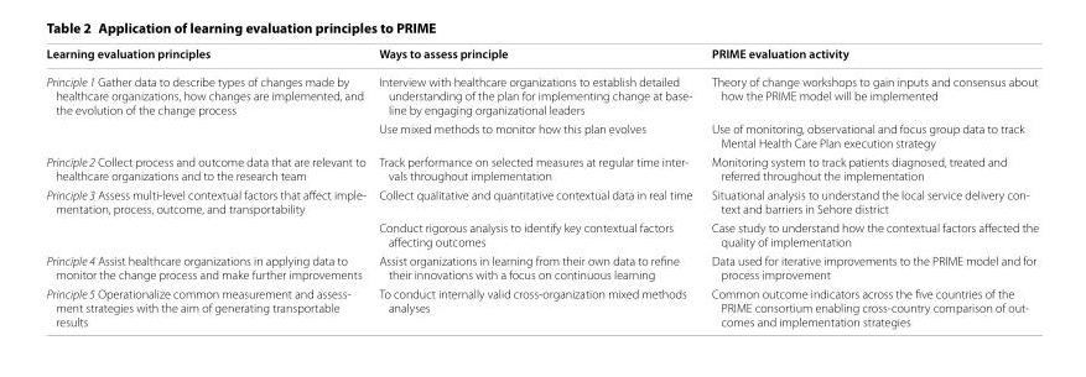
<table><thead><tr><td>Learning evaluation principles</td><td>Ways to assess principle</td><td>PRIME evaluation activity</td></tr></thead><tbody><tr><td rowspan="2">Principle 1 Gather data to describe types of changes made by healthcare organizations, how changes are implemented, and the evolution of the change process</td><td>Interview with healthcare organizations to establish detailed understanding of the plan for implementing change at base- line by engaging organizational leaders</td><td>Theory of change workshops to gain inputs and consensus about how the PRIME model will be implemented</td></tr><tr><td>Use mixed methods to monitor how this plan evolves</td><td>Use of monitoring, observational and focus group data to track Mental Health Care Plan execution strategy</td></tr><tr><td>Principle 2 Collect process and outcome data that are relevant to healthcare organizations and to the research team</td><td>Track performance on selected measures at regular time inter- vals throughout implementation</td><td>Monitoring system to track patients diagnosed, treated and referred throughout the implementation</td></tr><tr><td rowspan="2">Principle 3 Assess multi-level contextual factors that affect imple- mentation, process, outcome, and transportability</td><td>Collect qualitative and quantitative contextual data in real time</td><td>Situational analysis to understand the local service delivery con- text and barriers in Sehore district</td></tr><tr><td>Conduct rigorous analysis to identify key contextual factors affecting outcomes</td><td>Case study to understand how the contextual factors affected the quality of implementation</td></tr><tr><td>Principle 4 Assist healthcare organizations in applying data to monitor the change process and make further improvements</td><td>Assist organizations in learning from their own data to refine their innovations with a focus on continuous learning</td><td>Data used for iterative improvements to the PRIME model and for process improvement</td></tr><tr><td>Principle 5 Operationalize common measurement and assess- ment strategies with the aim of generating transportable results</td><td>To conduct internally valid cross-organization mixed methods analyses</td><td>Common outcome indicators across the five countries of the PRIME consortium enabling cross-country comparison of out- comes and implementation strategies</td></tr></tbody></table>